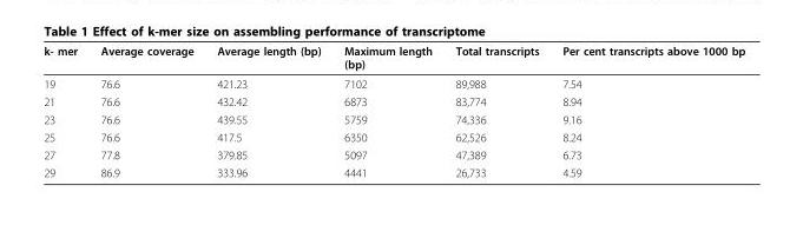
<table><thead><tr><td>k- mer</td><td>Average coverage</td><td>Average length (bp)</td><td>Maximum length (bp)</td><td>Total transcripts</td><td>Per cent transcripts above 1000 bp</td></tr></thead><tbody><tr><td>19</td><td>76.6</td><td>421.23</td><td>7102</td><td>89,988</td><td>7.54</td></tr><tr><td>21</td><td>76.6</td><td>432.42</td><td>6873</td><td>83,774</td><td>8.94</td></tr><tr><td>23</td><td>76.6</td><td>439.55</td><td>5759</td><td>74,336</td><td>9.16</td></tr><tr><td>25</td><td>76.6</td><td>417.5</td><td>6350</td><td>62,526</td><td>8.24</td></tr><tr><td>27</td><td>77.8</td><td>379.85</td><td>5097</td><td>47,389</td><td>6.73</td></tr><tr><td>29</td><td>86.9</td><td>333.96</td><td>4441</td><td>26,733</td><td>4.59</td></tr></tbody></table>